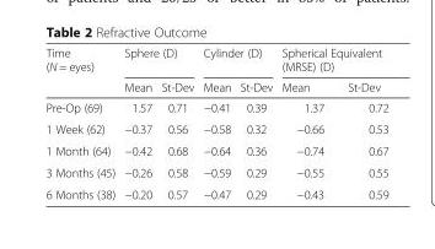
<table><thead><tr><td rowspan="2">Time (N = eyes)</td><td colspan="2">Sphere (D)</td><td colspan="2">Cylinder (D)</td><td colspan="2">Spherical Equivalent (MRSE) (D)</td></tr><tr><td>Mean</td><td>St-Dev</td><td>Mean</td><td>St-Dev</td><td>Mean</td><td>St-Dev</td></tr></thead><tbody><tr><td>Pre-Op (69)</td><td>1.57</td><td>0.71</td><td>−0.41</td><td>0.39</td><td>1.37</td><td>0.72</td></tr><tr><td>1 Week (62)</td><td>−0.37</td><td>0.56</td><td>−0.58</td><td>0.32</td><td>−0.66</td><td>0.53</td></tr><tr><td>1 Month (64)</td><td>−0.42</td><td>0.68</td><td>−0.64</td><td>0.36</td><td>−0.74</td><td>0.67</td></tr><tr><td>3 Months (45)</td><td>−0.26</td><td>0.58</td><td>−0.59</td><td>0.29</td><td>−0.55</td><td>0.55</td></tr><tr><td>6 Months (38)</td><td>−0.20</td><td>0.57</td><td>−0.47</td><td>0.29</td><td>−0.43</td><td>0.59</td></tr></tbody></table>